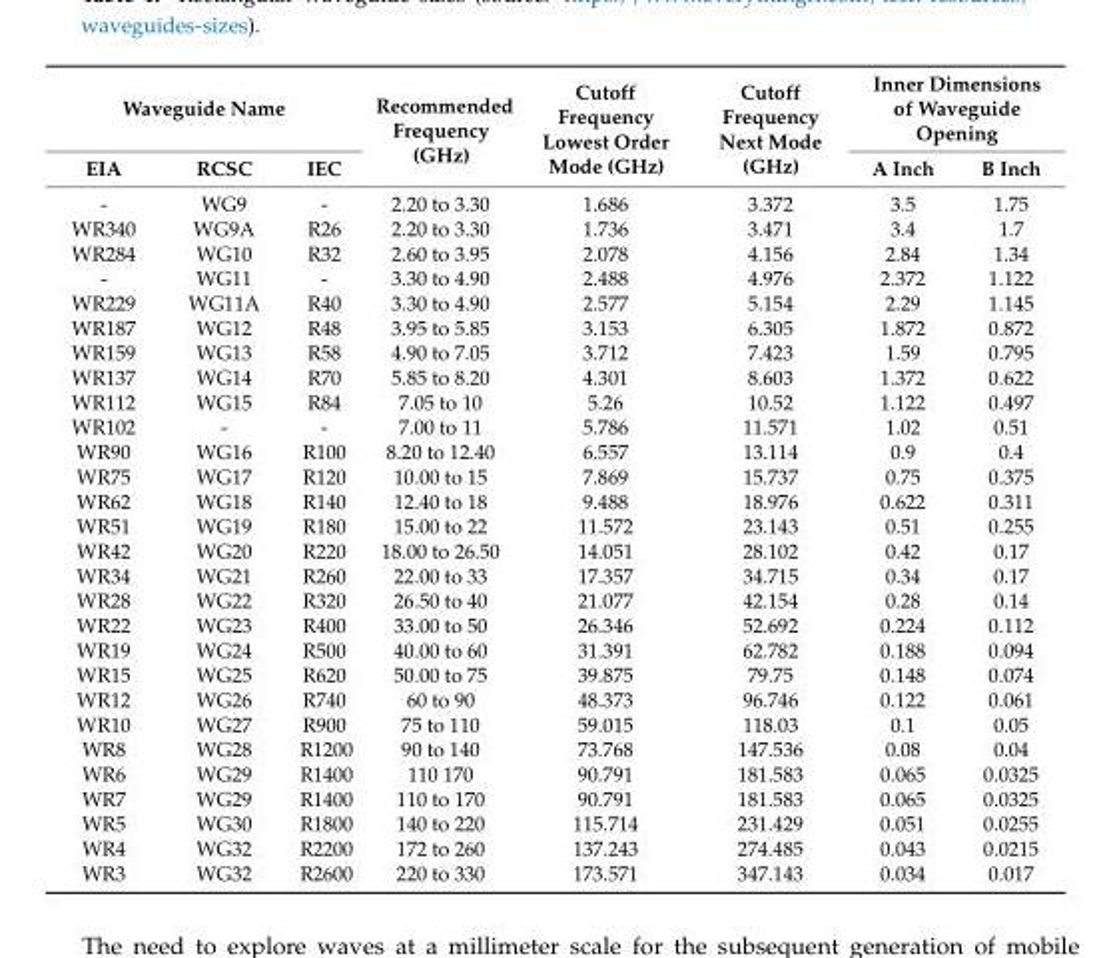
<table><thead><tr><td colspan="3">Waveguide Name</td><td rowspan="2">Recommended Frequency (GHz)</td><td rowspan="2">Cutoff Frequency Lowest Order Mode (GHz)</td><td rowspan="2">Cutoff Frequency Next Mode (GHz)</td><td colspan="2">Inner Dimensions of Waveguide Opening</td></tr><tr><td>EIA</td><td>RCSC</td><td>IEC</td><td>A Inch</td><td>B Inch</td></tr></thead><tbody><tr><td>-</td><td>WG9</td><td>-</td><td>2.20 to 3.30</td><td>1.686</td><td>3.372</td><td>3.5</td><td>1.75</td></tr><tr><td>WR340</td><td>WG9A</td><td>R26</td><td>2.20 to 3.30</td><td>1.736</td><td>3.471</td><td>3.4</td><td>1.7</td></tr><tr><td>WR284</td><td>WG10</td><td>R32</td><td>2.60 to 3.95</td><td>2.078</td><td>4.156</td><td>2.84</td><td>1.34</td></tr><tr><td>-</td><td>WG11</td><td>-</td><td>3.30 to 4.90</td><td>2.488</td><td>4.976</td><td>2.372</td><td>1.122</td></tr><tr><td>WR229</td><td>WG11A</td><td>R40</td><td>3.30 to 4.90</td><td>2.577</td><td>5.154</td><td>2.29</td><td>1.145</td></tr><tr><td>WR187</td><td>WG12</td><td>R48</td><td>3.95 to 5.85</td><td>3.153</td><td>6.305</td><td>1.872</td><td>0.872</td></tr><tr><td>WR159</td><td>WG13</td><td>R58</td><td>4.90 to 7.05</td><td>3.712</td><td>7.423</td><td>1.59</td><td>0.795</td></tr><tr><td>WR137</td><td>WG14</td><td>R70</td><td>5.85 to 8.20</td><td>4.301</td><td>8.603</td><td>1.372</td><td>0.622</td></tr><tr><td>WR112</td><td>WG15</td><td>R84</td><td>7.05 to 10</td><td>5.26</td><td>10.52</td><td>1.122</td><td>0.497</td></tr><tr><td>WR102</td><td>-</td><td>-</td><td>7.00 to 11</td><td>5.786</td><td>11.571</td><td>1.02</td><td>0.51</td></tr><tr><td>WR90</td><td>WG16</td><td>R100</td><td>8.20 to 12.40</td><td>6.557</td><td>13.114</td><td>0.9</td><td>0.4</td></tr><tr><td>WR75</td><td>WG17</td><td>R120</td><td>10.00 to 15</td><td>7.869</td><td>15.737</td><td>0.75</td><td>0.375</td></tr><tr><td>WR62</td><td>WG18</td><td>R140</td><td>12.40 to 18</td><td>9.488</td><td>18.976</td><td>0.622</td><td>0.311</td></tr><tr><td>WR51</td><td>WG19</td><td>R180</td><td>15.00 to 22</td><td>11.572</td><td>23.143</td><td>0.51</td><td>0.255</td></tr><tr><td>WR42</td><td>WG20</td><td>R220</td><td>18.00 to 26.50</td><td>14.051</td><td>28.102</td><td>0.42</td><td>0.17</td></tr><tr><td>WR34</td><td>WG21</td><td>R260</td><td>22.00 to 33</td><td>17.357</td><td>34.715</td><td>0.34</td><td>0.17</td></tr><tr><td>WR28</td><td>WG22</td><td>R320</td><td>26.50 to 40</td><td>21.077</td><td>42.154</td><td>0.28</td><td>0.14</td></tr><tr><td>WR22</td><td>WG23</td><td>R400</td><td>33.00 to 50</td><td>26.346</td><td>52.692</td><td>0.224</td><td>0.112</td></tr><tr><td>WR19</td><td>WG24</td><td>R500</td><td>40.00 to 60</td><td>31.391</td><td>62.782</td><td>0.188</td><td>0.094</td></tr><tr><td>WR15</td><td>WG25</td><td>R620</td><td>50.00 to 75</td><td>39.875</td><td>79.75</td><td>0.148</td><td>0.074</td></tr><tr><td>WR12</td><td>WG26</td><td>R740</td><td>60 to 90</td><td>48.373</td><td>96.746</td><td>0.122</td><td>0.061</td></tr><tr><td>WR10</td><td>WG27</td><td>R900</td><td>75 to 110</td><td>59.015</td><td>118.03</td><td>0.1</td><td>0.05</td></tr><tr><td>WR8</td><td>WG28</td><td>R1200</td><td>90 to 140</td><td>73.768</td><td>147.536</td><td>0.08</td><td>0.04</td></tr><tr><td>WR6</td><td>WG29</td><td>R1400</td><td>110 170</td><td>90.791</td><td>181.583</td><td>0.065</td><td>0.0325</td></tr><tr><td>WR7</td><td>WG29</td><td>R1400</td><td>110 to 170</td><td>90.791</td><td>181.583</td><td>0.065</td><td>0.0325</td></tr><tr><td>WR5</td><td>WG30</td><td>R1800</td><td>140 to 220</td><td>115.714</td><td>231.429</td><td>0.051</td><td>0.0255</td></tr><tr><td>WR4</td><td>WG32</td><td>R2200</td><td>172 to 260</td><td>137.243</td><td>274.485</td><td>0.043</td><td>0.0215</td></tr><tr><td>WR3</td><td>WG32</td><td>R2600</td><td>220 to 330</td><td>173.571</td><td>347.143</td><td>0.034</td><td>0.017</td></tr></tbody></table>